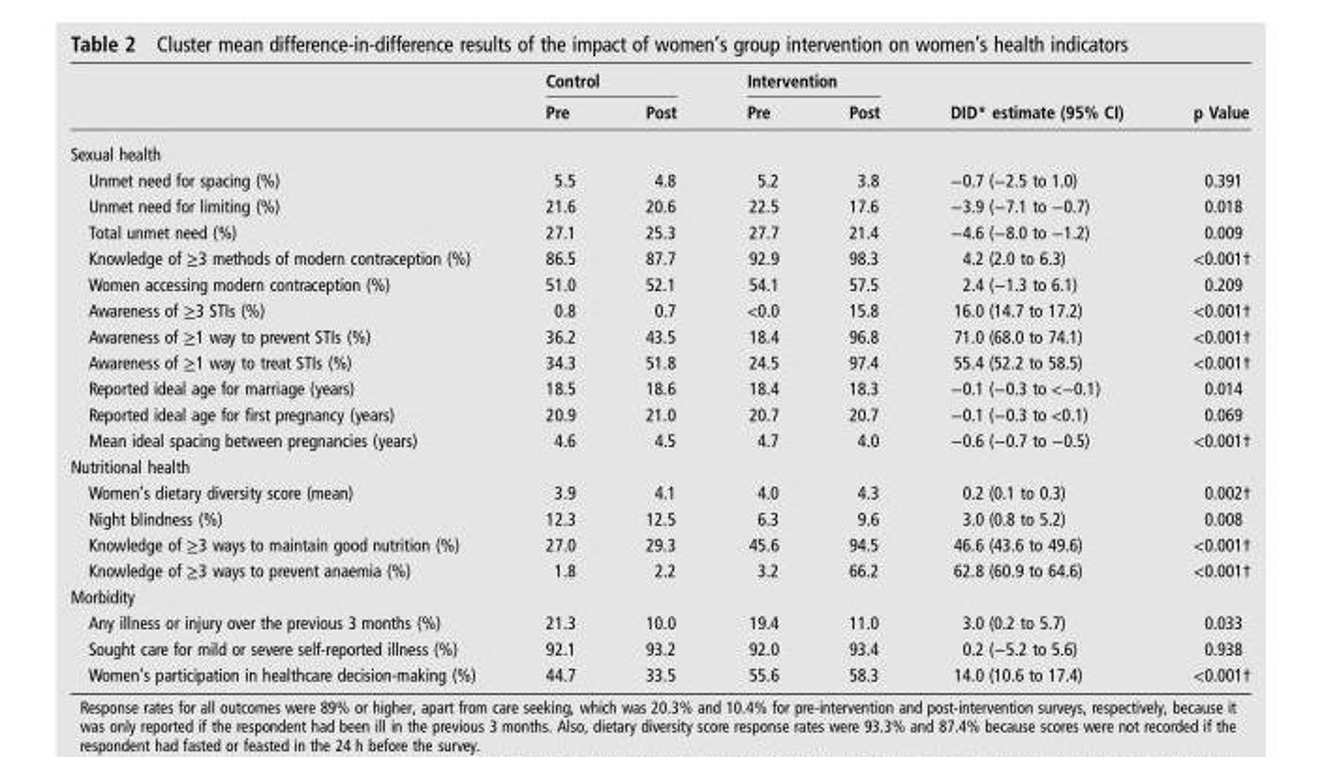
<table><thead><tr><td rowspan="2"></td><td colspan="2">Control</td><td colspan="2">Intervention</td><td rowspan="2">DID* estimate (95% CI)</td><td rowspan="2">p Value</td></tr><tr><td>Pre</td><td>Post</td><td>Pre</td><td>Post</td></tr></thead><tbody><tr><td colspan="7">Sexual health</td></tr><tr><td>Unmet need for spacing (%)</td><td>5.5</td><td>4.8</td><td>5.2</td><td>3.8</td><td>−0.7 (−2.5 to 1.0)</td><td>0.391</td></tr><tr><td>Unmet need for limiting (%)</td><td>21.6</td><td>20.6</td><td>22.5</td><td>17.6</td><td>−3.9 (−7.1 to −0.7)</td><td>0.018</td></tr><tr><td>Total unmet need (%)</td><td>27.1</td><td>25.3</td><td>27.7</td><td>21.4</td><td>−4.6 (−8.0 to −1.2)</td><td>0.009</td></tr><tr><td>Knowledge of ≥3 methods of modern contraception (%)</td><td>86.5</td><td>87.7</td><td>92.9</td><td>98.3</td><td>4.2 (2.0 to 6.3)</td><td>&lt;0.001†</td></tr><tr><td>Women accessing modern contraception (%)</td><td>51.0</td><td>52.1</td><td>54.1</td><td>57.5</td><td>2.4 (−1.3 to 6.1)</td><td>0.209</td></tr><tr><td>Awareness of ≥3 STIs (%)</td><td>0.8</td><td>0.7</td><td>&lt;0.0</td><td>15.8</td><td>16.0 (14.7 to 17.2)</td><td>&lt;0.001†</td></tr><tr><td>Awareness of ≥1 way to prevent STIs (%)</td><td>36.2</td><td>43.5</td><td>18.4</td><td>96.8</td><td>71.0 (68.0 to 74.1)</td><td>&lt;0.001†</td></tr><tr><td>Awareness of ≥1 way to treat STIs (%)</td><td>34.3</td><td>51.8</td><td>24.5</td><td>97.4</td><td>55.4 (52.2 to 58.5)</td><td>&lt;0.001†</td></tr><tr><td>Reported ideal age for marriage (years)</td><td>18.5</td><td>18.6</td><td>18.4</td><td>18.3</td><td>−0.1 (−0.3 to &lt;−0.1)</td><td>0.014</td></tr><tr><td>Reported ideal age for first pregnancy (years)</td><td>20.9</td><td>21.0</td><td>20.7</td><td>20.7</td><td>−0.1 (−0.3 to &lt;0.1)</td><td>0.069</td></tr><tr><td>Mean ideal spacing between pregnancies (years)</td><td>4.6</td><td>4.5</td><td>4.7</td><td>4.0</td><td>−0.6 (−0.7 to −0.5)</td><td>&lt;0.001†</td></tr><tr><td colspan="7">Nutritional health</td></tr><tr><td>Women’s dietary diversity score (mean)</td><td>3.9</td><td>4.1</td><td>4.0</td><td>4.3</td><td>0.2 (0.1 to 0.3)</td><td>0.002†</td></tr><tr><td>Night blindness (%)</td><td>12.3</td><td>12.5</td><td>6.3</td><td>9.6</td><td>3.0 (0.8 to 5.2)</td><td>0.008</td></tr><tr><td>Knowledge of ≥3 ways to maintain good nutrition (%)</td><td>27.0</td><td>29.3</td><td>45.6</td><td>94.5</td><td>46.6 (43.6 to 49.6)</td><td>&lt;0.001†</td></tr><tr><td>Knowledge of ≥3 ways to prevent anaemia (%)</td><td>1.8</td><td>2.2</td><td>3.2</td><td>66.2</td><td>62.8 (60.9 to 64.6)</td><td>&lt;0.001†</td></tr><tr><td colspan="7">Morbidity</td></tr><tr><td>Any illness or injury over the previous 3 months (%)</td><td>21.3</td><td>10.0</td><td>19.4</td><td>11.0</td><td>3.0 (0.2 to 5.7)</td><td>0.033</td></tr><tr><td>Sought care for mild or severe self-reported illness (%)</td><td>92.1</td><td>93.2</td><td>92.0</td><td>93.4</td><td>0.2 (−5.2 to 5.6)</td><td>0.938</td></tr><tr><td>Women’s participation in healthcare decision-making (%)</td><td>44.7</td><td>33.5</td><td>55.6</td><td>58.3</td><td>14.0 (10.6 to 17.4)</td><td>&lt;0.001†</td></tr></tbody></table>